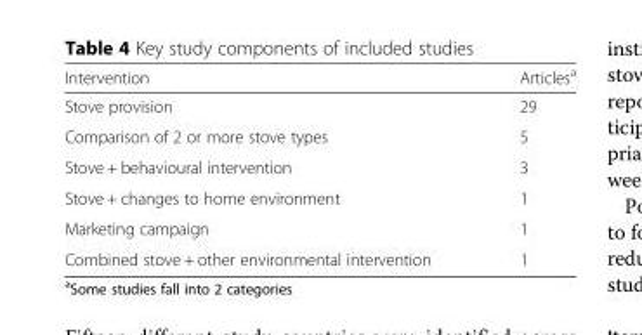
<table><thead><tr><td>Intervention</td><td>Articles<sup>a</sup></td></tr></thead><tbody><tr><td>Stove provision</td><td>29</td></tr><tr><td>Comparison of 2 or more stove types</td><td>5</td></tr><tr><td>Stove + behavioural intervention</td><td>3</td></tr><tr><td>Stove + changes to home environment</td><td>1</td></tr><tr><td>Marketing campaign</td><td>1</td></tr><tr><td>Combined stove + other environmental intervention</td><td>1</td></tr></tbody></table>